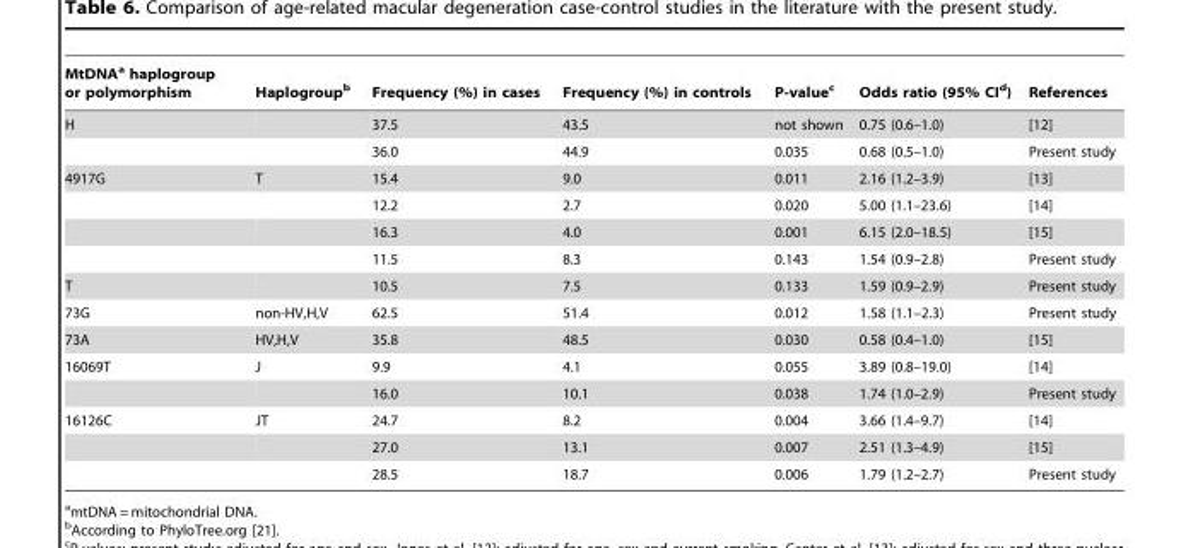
<table><thead><tr><td>MtDNA<sup>a</sup> haplogroup or polymorphism</td><td>Haplogroup<sup>b</sup></td><td>Frequency (%) in cases</td><td>Frequency (%) in controls</td><td>P-value<sup>c</sup></td><td>Odds ratio (95% CI<sup>d</sup>)</td><td>References</td></tr></thead><tbody><tr><td rowspan="2">H</td><td></td><td>37.5</td><td>43.5</td><td>not shown</td><td>0.75 (0.6–1.0)</td><td>[12]</td></tr><tr><td></td><td>36.0</td><td>44.9</td><td>0.035</td><td>0.68 (0.5–1.0)</td><td>Present study</td></tr><tr><td rowspan="4">4917G</td><td>T</td><td>15.4</td><td>9.0</td><td>0.011</td><td>2.16 (1.2–3.9)</td><td>[13]</td></tr><tr><td></td><td>12.2</td><td>2.7</td><td>0.020</td><td>5.00 (1.1–23.6)</td><td>[14]</td></tr><tr><td></td><td>16.3</td><td>4.0</td><td>0.001</td><td>6.15 (2.0–18.5)</td><td>[15]</td></tr><tr><td></td><td>11.5</td><td>8.3</td><td>0.143</td><td>1.54 (0.9–2.8)</td><td>Present study</td></tr><tr><td>T</td><td></td><td>10.5</td><td>7.5</td><td>0.133</td><td>1.59 (0.9–2.9)</td><td>Present study</td></tr><tr><td>73G</td><td>non-HV,H,V</td><td>62.5</td><td>51.4</td><td>0.012</td><td>1.58 (1.1–2.3)</td><td>Present study</td></tr><tr><td>73A</td><td>HV,H,V</td><td>35.8</td><td>48.5</td><td>0.030</td><td>0.58 (0.4–1.0)</td><td>[15]</td></tr><tr><td rowspan="2">16069T</td><td>J</td><td>9.9</td><td>4.1</td><td>0.055</td><td>3.89 (0.8–19.0)</td><td>[14]</td></tr><tr><td></td><td>16.0</td><td>10.1</td><td>0.038</td><td>1.74 (1.0–2.9)</td><td>Present study</td></tr><tr><td rowspan="3">16126C</td><td>JT</td><td>24.7</td><td>8.2</td><td>0.004</td><td>3.66 (1.4–9.7)</td><td>[14]</td></tr><tr><td></td><td>27.0</td><td>13.1</td><td>0.007</td><td>2.51 (1.3–4.9)</td><td>[15]</td></tr><tr><td></td><td>28.5</td><td>18.7</td><td>0.006</td><td>1.79 (1.2–2.7)</td><td>Present study</td></tr></tbody></table>